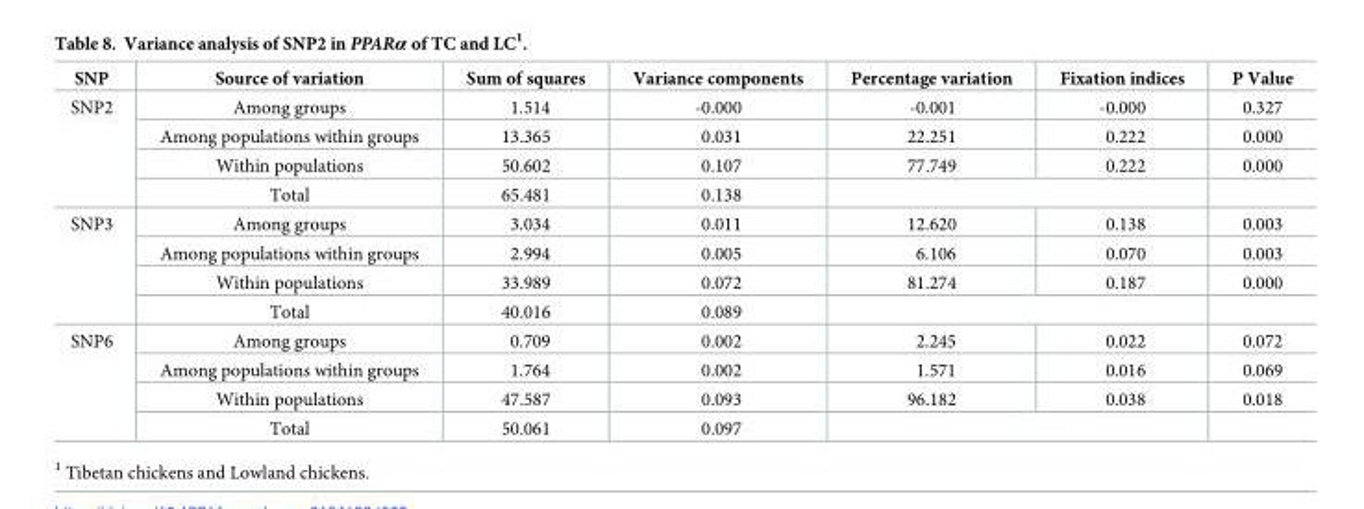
<table><thead><tr><td>SNP</td><td>Source of variation</td><td>Sum of squares</td><td>Variance components</td><td>Percentage variation</td><td>Fixation indices</td><td>P Value</td></tr></thead><tbody><tr><td rowspan="4">SNP2</td><td>Among groups</td><td>1.514</td><td>-0.000</td><td>-0.001</td><td>-0.000</td><td>0.327</td></tr><tr><td>Among populations within groups</td><td>13.365</td><td>0.031</td><td>22.251</td><td>0.222</td><td>0.000</td></tr><tr><td>Within populations</td><td>50.602</td><td>0.107</td><td>77.749</td><td>0.222</td><td>0.000</td></tr><tr><td>Total</td><td>65.481</td><td>0.138</td><td colspan="2"></td><td></td></tr><tr><td rowspan="4">SNP3</td><td>Among groups</td><td>3.034</td><td>0.011</td><td>12.620</td><td>0.138</td><td>0.003</td></tr><tr><td>Among populations within groups</td><td>2.994</td><td>0.005</td><td>6.106</td><td>0.070</td><td>0.003</td></tr><tr><td>Within populations</td><td>33.989</td><td>0.072</td><td>81.274</td><td>0.187</td><td>0.000</td></tr><tr><td>Total</td><td>40.016</td><td>0.089</td><td colspan="2"></td><td></td></tr><tr><td rowspan="4">SNP6</td><td>Among groups</td><td>0.709</td><td>0.002</td><td>2.245</td><td>0.022</td><td>0.072</td></tr><tr><td>Among populations within groups</td><td>1.764</td><td>0.002</td><td>1.571</td><td>0.016</td><td>0.069</td></tr><tr><td>Within populations</td><td>47.587</td><td>0.093</td><td>96.182</td><td>0.038</td><td>0.018</td></tr><tr><td>Total</td><td>50.061</td><td>0.097</td><td colspan="2"></td><td></td></tr></tbody></table>